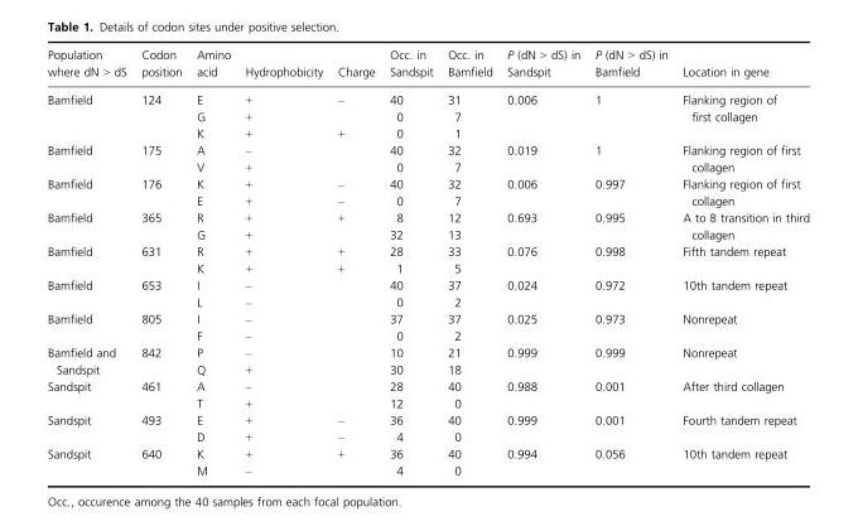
<table><thead><tr><td>Population where dN &gt; dS</td><td>Codon position</td><td>Amino acid</td><td>Hydrophobicity</td><td>Charge</td><td>Occ. in Sandspit</td><td>Occ. in Bamfield</td><td>P (dN &gt; dS) in Sandspit</td><td>P (dN &gt; dS) in Bamfield</td><td>Location in gene</td></tr></thead><tbody><tr><td rowspan="3">Bamfield</td><td rowspan="3">124</td><td>E</td><td>+</td><td>–</td><td>40</td><td>31</td><td rowspan="3">0.006</td><td rowspan="3">1</td><td rowspan="3">Flanking region of first collagen</td></tr><tr><td>G</td><td>+</td><td></td><td>0</td><td>7</td></tr><tr><td>K</td><td>+</td><td>+</td><td>0</td><td>1</td></tr><tr><td rowspan="2">Bamfield</td><td rowspan="2">175</td><td>A</td><td>–</td><td></td><td>40</td><td>32</td><td rowspan="2">0.019</td><td rowspan="2">1</td><td rowspan="2">Flanking region of first collagen</td></tr><tr><td>V</td><td>+</td><td></td><td>0</td><td>7</td></tr><tr><td rowspan="2">Bamfield</td><td rowspan="2">176</td><td>K</td><td>+</td><td>–</td><td>40</td><td>32</td><td rowspan="2">0.006</td><td rowspan="2">0.997</td><td rowspan="2">Flanking region of first collagen</td></tr><tr><td>E</td><td>+</td><td>–</td><td>0</td><td>7</td></tr><tr><td rowspan="2">Bamfield</td><td rowspan="2">365</td><td>R</td><td>+</td><td>+</td><td>8</td><td>12</td><td rowspan="2">0.693</td><td rowspan="2">0.995</td><td rowspan="2">A to B transition in third collagen</td></tr><tr><td>G</td><td>+</td><td></td><td>32</td><td>13</td></tr><tr><td rowspan="2">Bamfield</td><td rowspan="2">631</td><td>R</td><td>+</td><td>+</td><td>28</td><td>33</td><td rowspan="2">0.076</td><td rowspan="2">0.998</td><td rowspan="2">Fifth tandem repeat</td></tr><tr><td>K</td><td>+</td><td>+</td><td>1</td><td>5</td></tr><tr><td rowspan="2">Bamfield</td><td rowspan="2">653</td><td>I</td><td>–</td><td></td><td>40</td><td>37</td><td rowspan="2">0.024</td><td rowspan="2">0.972</td><td rowspan="2">10th tandem repeat</td></tr><tr><td>L</td><td>–</td><td></td><td>0</td><td>2</td></tr><tr><td rowspan="2">Bamfield</td><td rowspan="2">805</td><td>I</td><td>–</td><td></td><td>37</td><td>37</td><td rowspan="2">0.025</td><td rowspan="2">0.973</td><td rowspan="2">Nonrepeat</td></tr><tr><td>F</td><td>–</td><td></td><td>0</td><td>2</td></tr><tr><td rowspan="2">Bamfield and Sandspit</td><td rowspan="2">842</td><td>P</td><td>–</td><td></td><td>10</td><td>21</td><td rowspan="2">0.999</td><td rowspan="2">0.999</td><td rowspan="2">Nonrepeat</td></tr><tr><td>Q</td><td>+</td><td></td><td>30</td><td>18</td></tr><tr><td rowspan="2">Sandspit</td><td rowspan="2">461</td><td>A</td><td>–</td><td></td><td>28</td><td>40</td><td rowspan="2">0.988</td><td rowspan="2">0.001</td><td rowspan="2">After third collagen</td></tr><tr><td>T</td><td>+</td><td></td><td>12</td><td>0</td></tr><tr><td rowspan="2">Sandspit</td><td rowspan="2">493</td><td>E</td><td>+</td><td>–</td><td>36</td><td>40</td><td rowspan="2">0.999</td><td rowspan="2">0.001</td><td rowspan="2">Fourth tandem repeat</td></tr><tr><td>D</td><td>+</td><td>–</td><td>4</td><td>0</td></tr><tr><td rowspan="2">Sandspit</td><td rowspan="2">640</td><td>K</td><td>+</td><td>+</td><td>36</td><td>40</td><td rowspan="2">0.994</td><td rowspan="2">0.056</td><td rowspan="2">10th tandem repeat</td></tr><tr><td>M</td><td>–</td><td></td><td>4</td><td>0</td></tr></tbody></table>